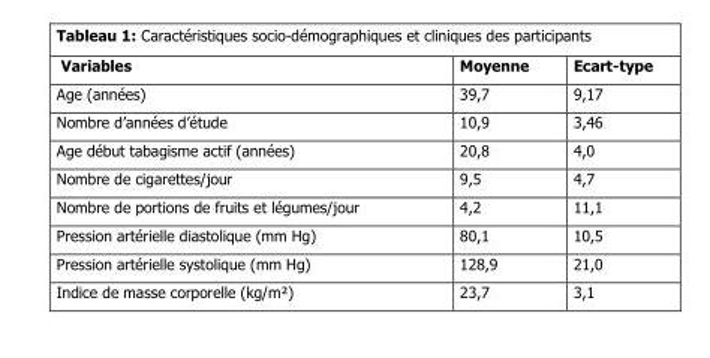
<table><thead><tr><td>Variables</td><td>Moyenne</td><td>Ecart-type</td></tr></thead><tbody><tr><td>Age (années)</td><td>39,7</td><td>9,17</td></tr><tr><td>Nombre d’années d’étude</td><td>10,9</td><td>3,46</td></tr><tr><td>Age début tabagisme actif (années)</td><td>20,8</td><td>4,0</td></tr><tr><td>Nombre de cigarettes/jour</td><td>9,5</td><td>4,7</td></tr><tr><td>Nombre de portions de fruits et légumes/jour</td><td>4,2</td><td>11,1</td></tr><tr><td>Pression artérielle diastolique (mm Hg)</td><td>80,1</td><td>10,5</td></tr><tr><td>Pression artérielle systolique (mm Hg)</td><td>128,9</td><td>21,0</td></tr><tr><td>Indice de masse corporelle (kg/m²)</td><td>23,7</td><td>3,1</td></tr></tbody></table>